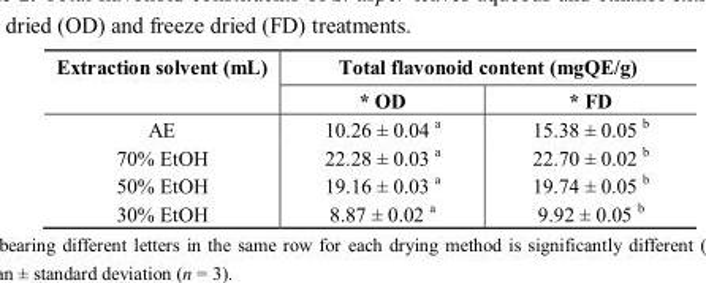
<table><thead><tr><td rowspan="2">Extraction solvent (mL)</td><td colspan="2">Total flavonoid content (mgQE/g)</td></tr><tr><td>* OD</td><td>* FD</td></tr></thead><tbody><tr><td>AE</td><td>10.26 ± 0.04 <sup>a</sup></td><td>15.38 ± 0.05 <sup>b</sup></td></tr><tr><td>70% EtOH</td><td>22.28 ± 0.03 <sup>a</sup></td><td>22.70 ± 0.02 <sup>b</sup></td></tr><tr><td>50% EtOH</td><td>19.16 ± 0.03 <sup>a</sup></td><td>19.74 ± 0.05 <sup>b</sup></td></tr><tr><td>30% EtOH</td><td>8.87 ± 0.02 <sup>a</sup></td><td>9.92 ± 0.05 <sup>b</sup></td></tr></tbody></table>